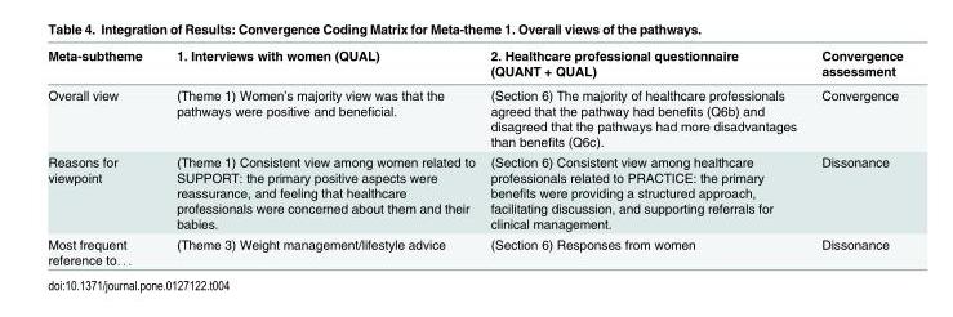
<table><thead><tr><td>Meta-subtheme</td><td>1. Interviews with women (QUAL)</td><td>2. Healthcare professional questionnaire (QUANT + QUAL)</td><td>Convergence assessment</td></tr></thead><tbody><tr><td>Overall view</td><td>(Theme 1) Women’s majority view was that the pathways were positive and beneficial.</td><td>(Section 6) The majority of healthcare professionals agreed that the pathway had benefits (Q6b) and disagreed that the pathways had more disadvantages than benefits (Q6c).</td><td>Convergence</td></tr><tr><td>Reasons for viewpoint</td><td>(Theme 1) Consistent view among women related to SUPPORT: the primary positive aspects were reassurance, and feeling that healthcare professionals were concerned about them and their babies.</td><td>(Section 6) Consistent view among healthcare professionals related to PRACTICE: the primary benefits were providing a structured approach, facilitating discussion, and supporting referrals for clinical management.</td><td>Dissonance</td></tr><tr><td>Most frequent reference to. . .</td><td>(Theme 3) Weight management/lifestyle advice</td><td>(Section 6) Responses from women</td><td>Dissonance</td></tr></tbody></table>